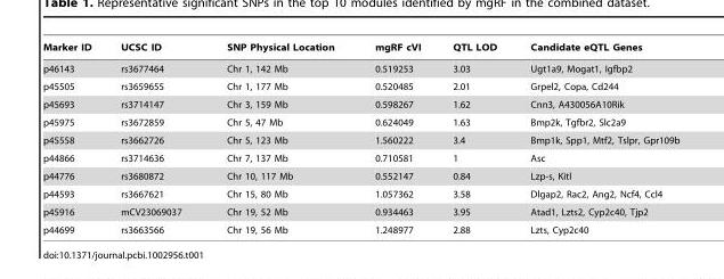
<table><thead><tr><td>Marker ID</td><td>UCSC ID</td><td>SNP Physical Location</td><td>mgRF cVI</td><td>QTL LOD</td><td>Candidate eQTL Genes</td></tr></thead><tbody><tr><td>p46143</td><td>rs3677464</td><td>Chr 1, 142 Mb</td><td>0.519253</td><td>3.03</td><td>Ugt1a9, Mogat1, Igfbp2</td></tr><tr><td>p45505</td><td>rs3659655</td><td>Chr 1, 177 Mb</td><td>0.520485</td><td>2.01</td><td>Grpel2, Copa, Cd244</td></tr><tr><td>p45693</td><td>rs3714147</td><td>Chr 3, 159 Mb</td><td>0.598267</td><td>1.62</td><td>Cnn3, A430056A10Rik</td></tr><tr><td>p45975</td><td>rs3672859</td><td>Chr 5, 47 Mb</td><td>0.624049</td><td>1.63</td><td>Bmp2k, Tgfbr2, Slc2a9</td></tr><tr><td>p45558</td><td>rs3662726</td><td>Chr 5, 123 Mb</td><td>1.560222</td><td>3.4</td><td>Bmp1k, Spp1, Mtf2, Tslpr, Gpr109b</td></tr><tr><td>p44866</td><td>rs3714636</td><td>Chr 7, 137 Mb</td><td>0.710581</td><td>1</td><td>Asc</td></tr><tr><td>p44776</td><td>rs3680872</td><td>Chr 10, 117 Mb</td><td>0.552147</td><td>0.84</td><td>Lzp-s, Kitl</td></tr><tr><td>p44593</td><td>rs3667621</td><td>Chr 15, 80 Mb</td><td>1.057362</td><td>3.58</td><td>Dlgap2, Rac2, Ang2, Ncf4, Ccl4</td></tr><tr><td>p45916</td><td>mCV23069037</td><td>Chr 19, 52 Mb</td><td>0.934463</td><td>3.95</td><td>Atad1, Lzts2, Cyp2c40, Tjp2</td></tr><tr><td>p44699</td><td>rs3663566</td><td>Chr 19, 56 Mb</td><td>1.248977</td><td>2.88</td><td>Lzts, Cyp2c40</td></tr></tbody></table>